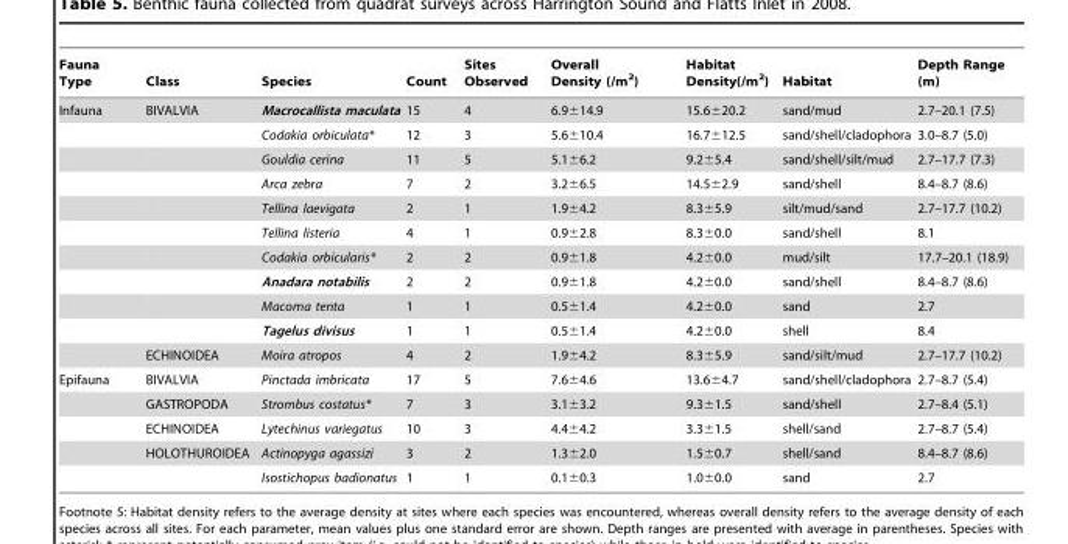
<table><thead><tr><td>Fauna Type</td><td>Class</td><td>Species</td><td>Count</td><td>Sites Observed</td><td>Overall Density (/m<sup>2</sup>)</td><td>Habitat Density(/m<sup>2</sup>)</td><td>Habitat</td><td>Depth Range (m)</td></tr></thead><tbody><tr><td rowspan="11">Infauna</td><td>BIVALVIA</td><td>Macrocallista maculata</td><td>15</td><td>4</td><td>6.9±14.9</td><td>15.6±20.2</td><td>sand/mud</td><td>2.7–20.1 (7.5)</td></tr><tr><td></td><td>Codakia orbiculata*</td><td>12</td><td>3</td><td>5.6±10.4</td><td>16.7±12.5</td><td>sand/shell/cladophora</td><td>3.0–8.7 (5.0)</td></tr><tr><td></td><td>Gouldia cerina</td><td>11</td><td>5</td><td>5.1±6.2</td><td>9.2±5.4</td><td>sand/shell/silt/mud</td><td>2.7–17.7 (7.3)</td></tr><tr><td></td><td>Arca zebra</td><td>7</td><td>2</td><td>3.2±6.5</td><td>14.5±2.9</td><td>sand/shell</td><td>8.4–8.7 (8.6)</td></tr><tr><td></td><td>Tellina laevigata</td><td>2</td><td>1</td><td>1.9±4.2</td><td>8.3±5.9</td><td>silt/mud/sand</td><td>2.7–17.7 (10.2)</td></tr><tr><td></td><td>Tellina listeria</td><td>4</td><td>1</td><td>0.9±2.8</td><td>8.3±0.0</td><td>sand/shell</td><td>8.1</td></tr><tr><td></td><td>Codakia orbicularis*</td><td>2</td><td>2</td><td>0.9±1.8</td><td>4.2±0.0</td><td>mud/silt</td><td>17.7–20.1 (18.9)</td></tr><tr><td></td><td>Anadara notabilis</td><td>2</td><td>2</td><td>0.9±1.8</td><td>4.2±0.0</td><td>sand/shell</td><td>8.4–8.7 (8.6)</td></tr><tr><td></td><td>Macoma tenta</td><td>1</td><td>1</td><td>0.5±1.4</td><td>4.2±0.0</td><td>sand</td><td>2.7</td></tr><tr><td></td><td>Tagelus divisus</td><td>1</td><td>1</td><td>0.5±1.4</td><td>4.2±0.0</td><td>shell</td><td>8.4</td></tr><tr><td>ECHINOIDEA</td><td>Moira atropos</td><td>4</td><td>2</td><td>1.9±4.2</td><td>8.3±5.9</td><td>sand/silt/mud</td><td>2.7–17.7 (10.2)</td></tr><tr><td rowspan="5">Epifauna</td><td>BIVALVIA</td><td>Pinctada imbricata</td><td>17</td><td>5</td><td>7.6±4.6</td><td>13.6±4.7</td><td>sand/shell/cladophora</td><td>2.7–8.7 (5.4)</td></tr><tr><td>GASTROPODA</td><td>Strombus costatus*</td><td>7</td><td>3</td><td>3.1±3.2</td><td>9.3±1.5</td><td>sand/shell</td><td>2.7–8.4 (5.1)</td></tr><tr><td>ECHINOIDEA</td><td>Lytechinus variegatus</td><td>10</td><td>3</td><td>4.4±4.2</td><td>3.3±1.5</td><td>shell/sand</td><td>2.7–8.7 (5.4)</td></tr><tr><td>HOLOTHUROIDEA</td><td>Actinopyga agassizi</td><td>3</td><td>2</td><td>1.3±2.0</td><td>1.5±0.7</td><td>shell/sand</td><td>8.4–8.7 (8.6)</td></tr><tr><td></td><td>Isostichopus badionatus</td><td>1</td><td>1</td><td>0.1±0.3</td><td>1.0±0.0</td><td>sand</td><td>2.7</td></tr></tbody></table>